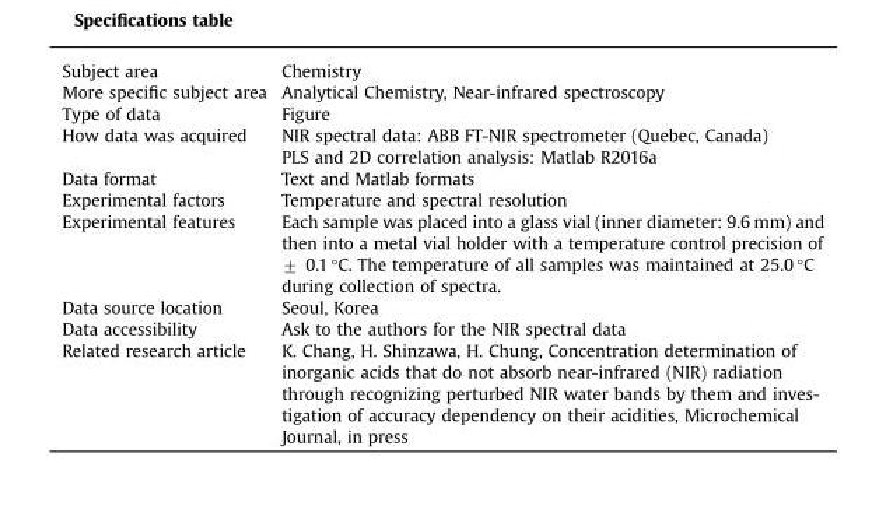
<table><tbody><tr><td>Subject area</td><td>Chemistry</td></tr><tr><td>More specific subject area</td><td>Analytical Chemistry, Near-infrared spectroscopy</td></tr><tr><td>Type of data</td><td>Figure</td></tr><tr><td rowspan="2">How data was acquired</td><td>NIR spectral data: ABB FT-NIR spectrometer (Quebec, Canada)</td></tr><tr><td>PLS and 2D correlation analysis: Matlab R2016a</td></tr><tr><td>Data format</td><td>Text and Matlab formats</td></tr><tr><td>Experimental factors</td><td>Temperature and spectral resolution</td></tr><tr><td>Experimental features</td><td>Each sample was placed into a glass vial (inner diameter: 9.6 mm) and then into a metal vial holder with a temperature control precision of ± 0.1 °C. The temperature of all samples was maintained at 25.0 °C during collection of spectra.</td></tr><tr><td>Data source location</td><td>Seoul, Korea</td></tr><tr><td>Data accessibility</td><td>Ask to the authors for the NIR spectral data</td></tr><tr><td>Related research article</td><td>K. Chang, H. Shinzawa, H. Chung, Concentration determination of inorganic acids that do not absorb near-infrared (NIR) radiation through recognizing perturbed NIR water bands by them and inves- tigation of accuracy dependency on their acidities, Microchemical Journal, in press</td></tr></tbody></table>